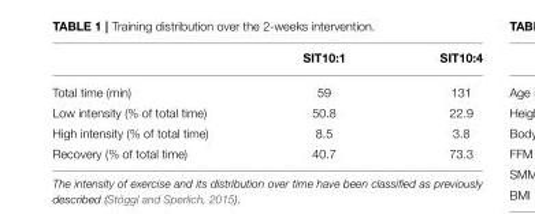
<table><thead><tr><td></td><td>SIT10:1</td><td>SIT10:4</td></tr></thead><tbody><tr><td>Total time (min)</td><td>59</td><td>131</td></tr><tr><td>Low intensity (% of total time)</td><td>50.8</td><td>22.9</td></tr><tr><td>High intensity (% of total time)</td><td>8.5</td><td>3.8</td></tr><tr><td>Recovery (% of total time)</td><td>40.7</td><td>73.3</td></tr></tbody></table>